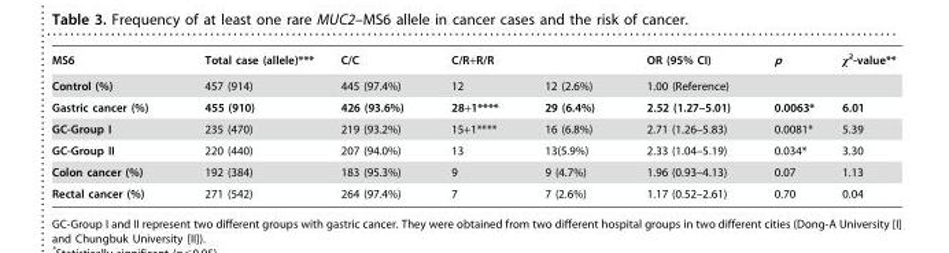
<table><thead><tr><td rowspan="2">MS6 Control (%)</td><td rowspan="2">Total case (allele)*** 457 (914)</td><td rowspan="2">C/C 445 (97.4%)</td><td colspan="2">C/R+R/R</td><td>OR (95% CI)</td><td>p</td><td>χ<sup>2</sup>-value**</td></tr><tr><td>12</td><td>12 (2.6%)</td><td colspan="3">1.00 (Reference)</td></tr></thead><tbody><tr><td>Gastric cancer (%)</td><td>455 (910)</td><td>426 (93.6%)</td><td>28+1****</td><td>29 (6.4%)</td><td>2.52 (1.27–5.01)</td><td>0.0063*</td><td>6.01</td></tr><tr><td>GC-Group I</td><td>235 (470)</td><td>219 (93.2%)</td><td>15+1****</td><td>16 (6.8%)</td><td>2.71 (1.26–5.83)</td><td>0.0081*</td><td>5.39</td></tr><tr><td>GC-Group II</td><td>220 (440)</td><td>207 (94.0%)</td><td>13</td><td>13(5.9%)</td><td>2.33 (1.04–5.19)</td><td>0.034*</td><td>3.30</td></tr><tr><td>Colon cancer (%)</td><td>192 (384)</td><td>183 (95.3%)</td><td>9</td><td>9 (4.7%)</td><td>1.96 (0.93–4.13)</td><td>0.07</td><td>1.13</td></tr><tr><td>Rectal cancer (%)</td><td>271 (542)</td><td>264 (97.4%)</td><td>7</td><td>7 (2.6%)</td><td>1.17 (0.52–2.61)</td><td>0.70</td><td>0.04</td></tr></tbody></table>